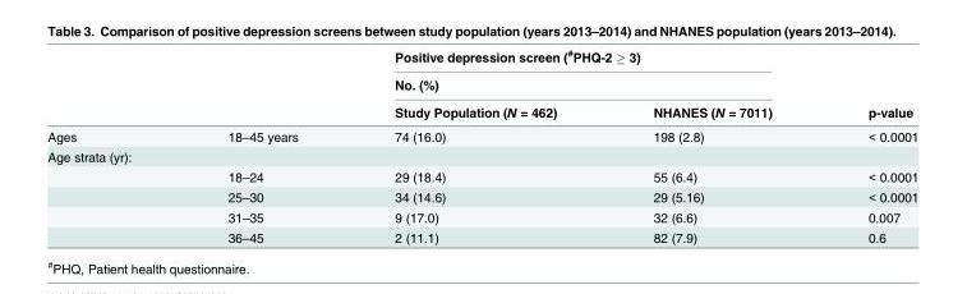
<table><thead><tr><td rowspan="3"></td><td rowspan="3"></td><td rowspan="2" colspan="2">Positive depression screen (<sup>#</sup>PHQ-2 ≥ 3) No. (%)</td><td rowspan="3">p-value</td></tr><tr></tr><tr><td>Study Population (N = 462)</td><td>NHANES (N = 7011)</td></tr></thead><tbody><tr><td>Ages</td><td>18–45 years</td><td>74 (16.0)</td><td>198 (2.8)</td><td>&lt; 0.0001</td></tr><tr><td colspan="5">Age strata (yr):</td></tr><tr><td></td><td>18–24</td><td>29 (18.4)</td><td>55 (6.4)</td><td>&lt; 0.0001</td></tr><tr><td></td><td>25–30</td><td>34 (14.6)</td><td>29 (5.16)</td><td>&lt; 0.0001</td></tr><tr><td></td><td>31–35</td><td>9 (17.0)</td><td>32 (6.6)</td><td>0.007</td></tr><tr><td></td><td>36–45</td><td>2 (11.1)</td><td>82 (7.9)</td><td>0.6</td></tr></tbody></table>